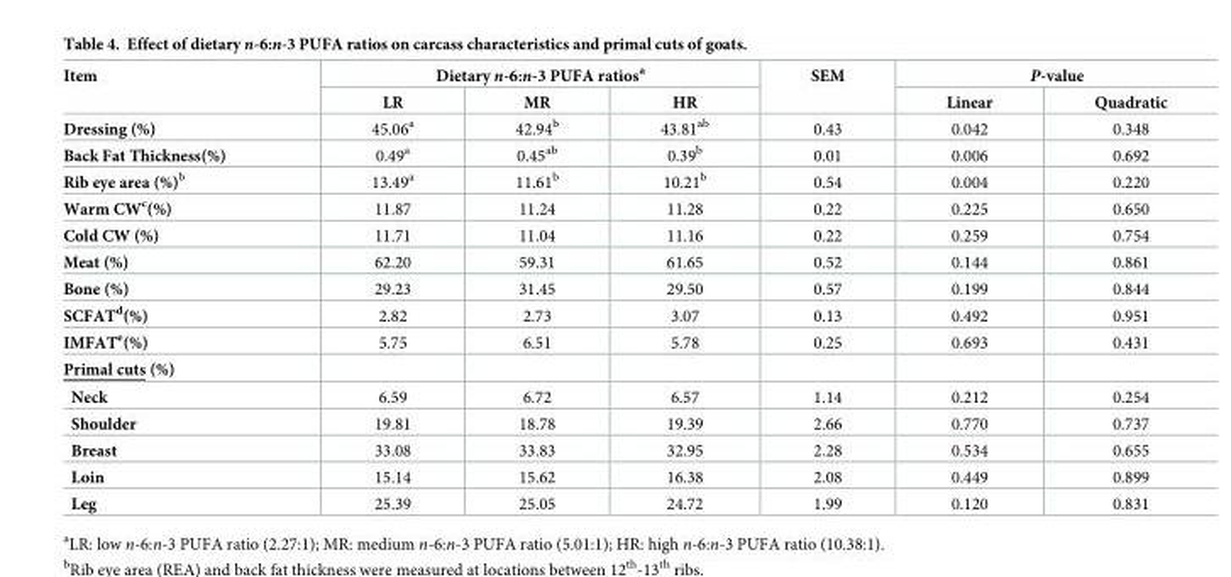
<table><thead><tr><td rowspan="2">Item</td><td colspan="3">Dietary n-6:n-3 PUFA ratios<sup>a</sup></td><td rowspan="2">SEM</td><td colspan="2">P-value</td></tr><tr><td>LR</td><td>MR</td><td>HR</td><td>Linear</td><td>Quadratic</td></tr></thead><tbody><tr><td>Dressing (%)</td><td>45.06<sup>a</sup></td><td>42.94<sup>b</sup></td><td>43.81<sup>ab</sup></td><td>0.43</td><td>0.042</td><td>0.348</td></tr><tr><td>Back Fat Thickness(%)</td><td>0.49<sup>a</sup></td><td>0.45<sup>ab</sup></td><td>0.39<sup>b</sup></td><td>0.01</td><td>0.006</td><td>0.692</td></tr><tr><td>Rib eye area (%)<sup>b</sup></td><td>13.49<sup>a</sup></td><td>11.61<sup>b</sup></td><td>10.21<sup>b</sup></td><td>0.54</td><td>0.004</td><td>0.220</td></tr><tr><td>Warm CW<sup>c</sup>(%)</td><td>11.87</td><td>11.24</td><td>11.28</td><td>0.22</td><td>0.225</td><td>0.650</td></tr><tr><td>Cold CW (%)</td><td>11.71</td><td>11.04</td><td>11.16</td><td>0.22</td><td>0.259</td><td>0.754</td></tr><tr><td>Meat (%)</td><td>62.20</td><td>59.31</td><td>61.65</td><td>0.52</td><td>0.144</td><td>0.861</td></tr><tr><td>Bone (%)</td><td>29.23</td><td>31.45</td><td>29.50</td><td>0.57</td><td>0.199</td><td>0.844</td></tr><tr><td>SCFAT<sup>d</sup>(%)</td><td>2.82</td><td>2.73</td><td>3.07</td><td>0.13</td><td>0.492</td><td>0.951</td></tr><tr><td>IMFAT<sup>e</sup>(%)</td><td>5.75</td><td>6.51</td><td>5.78</td><td>0.25</td><td>0.693</td><td>0.431</td></tr><tr><td colspan="7">Primal cuts (%)</td></tr><tr><td>Neck</td><td>6.59</td><td>6.72</td><td>6.57</td><td>1.14</td><td>0.212</td><td>0.254</td></tr><tr><td>Shoulder</td><td>19.81</td><td>18.78</td><td>19.39</td><td>2.66</td><td>0.770</td><td>0.737</td></tr><tr><td>Breast</td><td>33.08</td><td>33.83</td><td>32.95</td><td>2.28</td><td>0.534</td><td>0.655</td></tr><tr><td>Loin</td><td>15.14</td><td>15.62</td><td>16.38</td><td>2.08</td><td>0.449</td><td>0.899</td></tr><tr><td>Leg</td><td>25.39</td><td>25.05</td><td>24.72</td><td>1.99</td><td>0.120</td><td>0.831</td></tr></tbody></table>